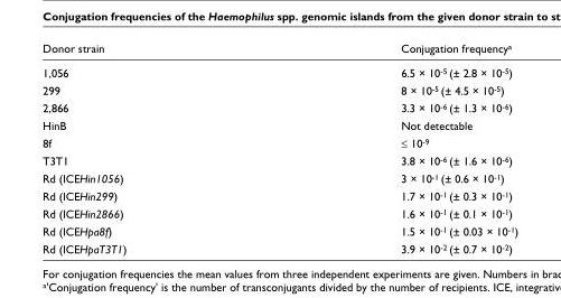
<table><thead><tr><td>Donor strain</td><td>Conjugation frequency<sup>a</sup></td></tr></thead><tbody><tr><td>1,056</td><td>6.5 × 10<sup>-5</sup> (± 2.8 × 10<sup>-5</sup>)</td></tr><tr><td>299</td><td>8 × 10<sup>-5</sup> (± 4.5 × 10<sup>-5</sup>)</td></tr><tr><td>2,866</td><td>3.3 × 10<sup>-6</sup> (± 1.3 × 10<sup>-6</sup>)</td></tr><tr><td>HinB</td><td>Not detectable</td></tr><tr><td>8f</td><td>≤ 10<sup>-9</sup></td></tr><tr><td>T3T1</td><td>3.8 × 10<sup>-6</sup> (± 1.6 × 10<sup>-6</sup>)</td></tr><tr><td>Rd (ICEHin1056)</td><td>3 × 10<sup>-1</sup> (± 0.6 × 10<sup>-1</sup>)</td></tr><tr><td>Rd (ICEHin299)</td><td>1.7 × 10<sup>-1</sup> (± 0.3 × 10<sup>-1</sup>)</td></tr><tr><td>Rd (ICEHin2866)</td><td>1.6 × 10<sup>-1</sup> (± 0.1 × 10<sup>-1</sup>)</td></tr><tr><td>Rd (ICEHpa8f)</td><td>1.5 × 10<sup>-1</sup> (± 0.03 × 10<sup>-1</sup>)</td></tr><tr><td>Rd (ICEHpaT3T1)</td><td>3.9 × 10<sup>-2</sup> (± 0.7 × 10<sup>-2</sup>)</td></tr></tbody></table>